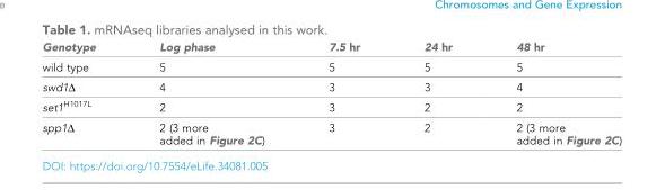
<table><thead><tr><td>Genotype</td><td>Log phase</td><td>7.5 hr</td><td>24 hr</td><td>48 hr</td></tr></thead><tbody><tr><td>wild type</td><td>5</td><td>5</td><td>5</td><td>5</td></tr><tr><td>swd1Δ</td><td>4</td><td>3</td><td>3</td><td>4</td></tr><tr><td>set1<sup>H1017L</sup></td><td>2</td><td>3</td><td>2</td><td>2</td></tr><tr><td>spp1Δ</td><td>2 (3 more added in Figure 2C)</td><td>3</td><td>2</td><td>2 (3 more added in Figure 2C)</td></tr></tbody></table>